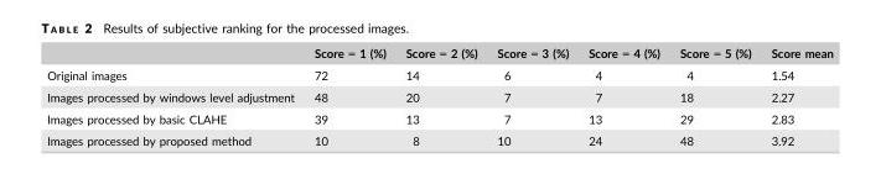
<table><thead><tr><td></td><td>Score = 1 (%)</td><td>Score = 2 (%)</td><td>Score = 3 (%)</td><td>Score = 4 (%)</td><td>Score = 5 (%)</td><td>Score mean</td></tr></thead><tbody><tr><td>Original images</td><td>72</td><td>14</td><td>6</td><td>4</td><td>4</td><td>1.54</td></tr><tr><td>Images processed by windows level adjustment</td><td>48</td><td>20</td><td>7</td><td>7</td><td>18</td><td>2.27</td></tr><tr><td>Images processed by basic CLAHE</td><td>39</td><td>13</td><td>7</td><td>13</td><td>29</td><td>2.83</td></tr><tr><td>Images processed by proposed method</td><td>10</td><td>8</td><td>10</td><td>24</td><td>48</td><td>3.92</td></tr></tbody></table>